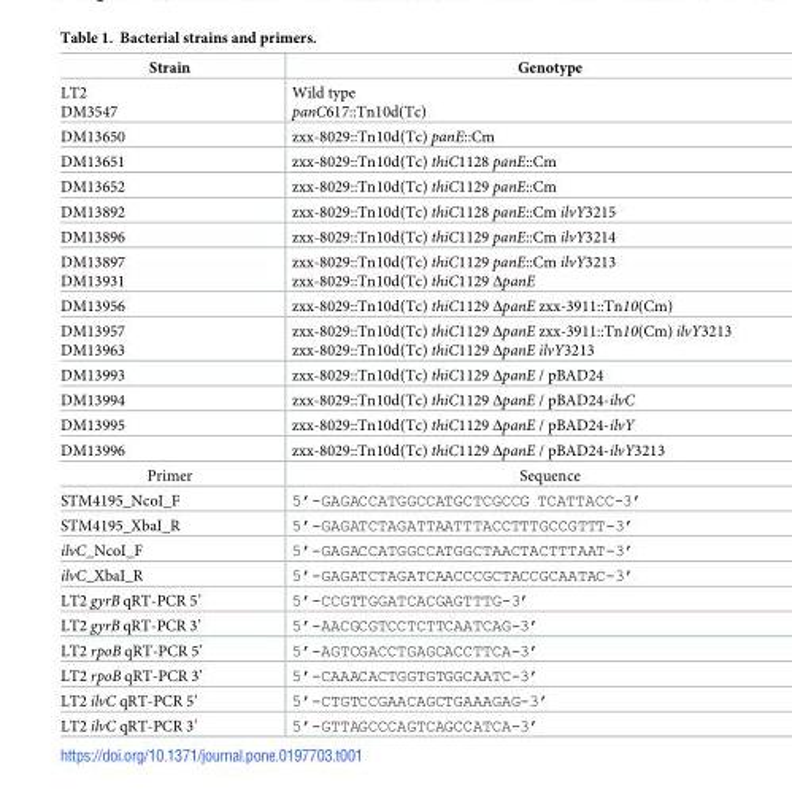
<table><thead><tr><td>Strain</td><td>Genotype</td></tr></thead><tbody><tr><td>LT2 DM3547</td><td>Wild type panC617::Tn10d(Tc)</td></tr><tr><td>DM13650</td><td>zxx-8029::Tn10d(Tc) panE::Cm</td></tr><tr><td>DM13651</td><td>zxx-8029::Tn10d(Tc) thiC1128 panE::Cm</td></tr><tr><td>DM13652</td><td>zxx-8029::Tn10d(Tc) thiC1129 panE::Cm</td></tr><tr><td>DM13892</td><td>zxx-8029::Tn10d(Tc) thiC1128 panE::Cm ilvY3215</td></tr><tr><td>DM13896</td><td>zxx-8029::Tn10d(Tc) thiC1129 panE::Cm ilvY3214</td></tr><tr><td>DM13897 DM13931</td><td>zxx-8029::Tn10d(Tc) thiC1129 panE::Cm ilvY3213 zxx-8029::Tn10d(Tc) thiC1129 ΔpanE</td></tr><tr><td>DM13956</td><td>zxx-8029::Tn10d(Tc) thiC1129 ΔpanE zxx-3911::Tn10(Cm)</td></tr><tr><td>DM13957 DM13963</td><td>zxx-8029::Tn10d(Tc) thiC1129 ΔpanE zxx-3911::Tn10(Cm) ilvY3213 zxx-8029::Tn10d(Tc) thiC1129 ΔpanE ilvY3213</td></tr><tr><td>DM13993</td><td>zxx-8029::Tn10d(Tc) thiC1129 ΔpanE / pBAD24</td></tr><tr><td>DM13994</td><td>zxx-8029::Tn10d(Tc) thiC1129 ΔpanE / pBAD24-ilvC</td></tr><tr><td>DM13995</td><td>zxx-8029::Tn10d(Tc) thiC1129 ΔpanE / pBAD24-ilvY</td></tr><tr><td>DM13996</td><td>zxx-8029::Tn10d(Tc) thiC1129 ΔpanE / pBAD24-ilvY3213</td></tr><tr><td>Primer</td><td>Sequence</td></tr><tr><td>STM4195_NcoI_F</td><td>5’-GAGACCATGGCCATGCTCGCCG TCATTACC-3’</td></tr><tr><td>STM4195_XbaI_R</td><td>5’-GAGATCTAGATTAATTTACCTTTGCCGTTT-3’</td></tr><tr><td>ilvC_NcoI_F</td><td>5’-GAGACCATGGCCATGGCTAACTACTTTAAT-3’</td></tr><tr><td>ilvC_XbaI_R</td><td>5’-GAGATCTAGATCAACCCGCTACCGCAATAC-3’</td></tr><tr><td>LT2 gyrB qRT-PCR 5’</td><td>5’-CCGTTGGATCACGAGTTTG-3’</td></tr><tr><td>LT2 gyrB qRT-PCR 3’</td><td>5’-AACGCGTCCTCTTCAATCAG-3’</td></tr><tr><td>LT2 rpoB qRT-PCR 5’</td><td>5’-AGTCGACCTGAGCACCTTCA-3’</td></tr><tr><td>LT2 rpoB qRT-PCR 3’</td><td>5’-CAAACACTGGTGTGGCAATC-3’</td></tr><tr><td>LT2 ilvC qRT-PCR 5’</td><td>5’-CTGTCCGAACAGCTGAAAGAG-3’</td></tr><tr><td>LT2 ilvC qRT-PCR 3’</td><td>5’-GTTAGCCCAGTCAGCCATCA-3’</td></tr></tbody></table>